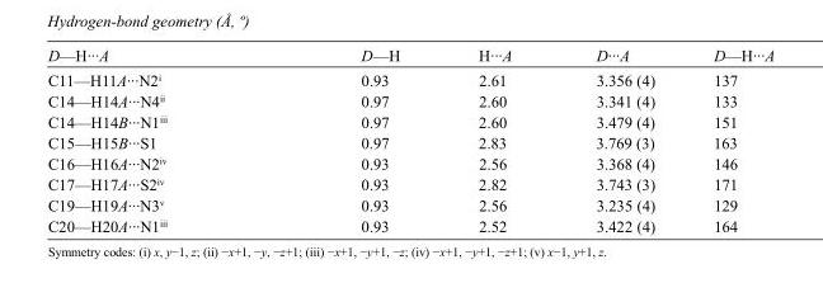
<table><tbody><tr><td>D—H···A</td><td>D—H</td><td>H···A</td><td>D···A</td><td>D—H···A</td></tr><tr><td>C11—H11A···N2<sup>i</sup></td><td>0.93</td><td>2.61</td><td>3.356 (4)</td><td>137</td></tr><tr><td>C14—H14A···N4<sup>ii</sup></td><td>0.97</td><td>2.60</td><td>3.341 (4)</td><td>133</td></tr><tr><td>C14—H14B···N1<sup>iii</sup></td><td>0.97</td><td>2.60</td><td>3.479 (4)</td><td>151</td></tr><tr><td>C15—H15B···S1</td><td>0.97</td><td>2.83</td><td>3.769 (3)</td><td>163</td></tr><tr><td>C16—H16A···N2<sup>iv</sup></td><td>0.93</td><td>2.56</td><td>3.368 (4)</td><td>146</td></tr><tr><td>C17—H17A···S2<sup>iv</sup></td><td>0.93</td><td>2.82</td><td>3.743 (3)</td><td>171</td></tr><tr><td>C19—H19A···N3<sup>v</sup></td><td>0.93</td><td>2.56</td><td>3.235 (4)</td><td>129</td></tr><tr><td>C20—H20A···N1<sup>iii</sup></td><td>0.93</td><td>2.52</td><td>3.422 (4)</td><td>164</td></tr></tbody></table>